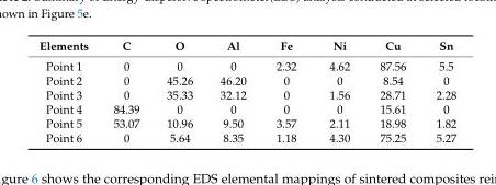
<table><thead><tr><td>Elements</td><td>C</td><td>O</td><td>Al</td><td>Fe</td><td>Ni</td><td>Cu</td><td>Sn</td></tr></thead><tbody><tr><td>Point 1</td><td>0</td><td>0</td><td>0</td><td>2.32</td><td>4.62</td><td>87.56</td><td>5.5</td></tr><tr><td>Point 2</td><td>0</td><td>45.26</td><td>46.20</td><td>0</td><td>0</td><td>8.54</td><td>0</td></tr><tr><td>Point 3</td><td>0</td><td>35.33</td><td>32.12</td><td>0</td><td>1.56</td><td>28.71</td><td>2.28</td></tr><tr><td>Point 4</td><td>84.39</td><td>0</td><td>0</td><td>0</td><td>0</td><td>15.61</td><td>0</td></tr><tr><td>Point 5</td><td>53.07</td><td>10.96</td><td>9.50</td><td>3.57</td><td>2.11</td><td>18.98</td><td>1.82</td></tr><tr><td>Point 6</td><td>0</td><td>5.64</td><td>8.35</td><td>1.18</td><td>4.30</td><td>75.25</td><td>5.27</td></tr></tbody></table>